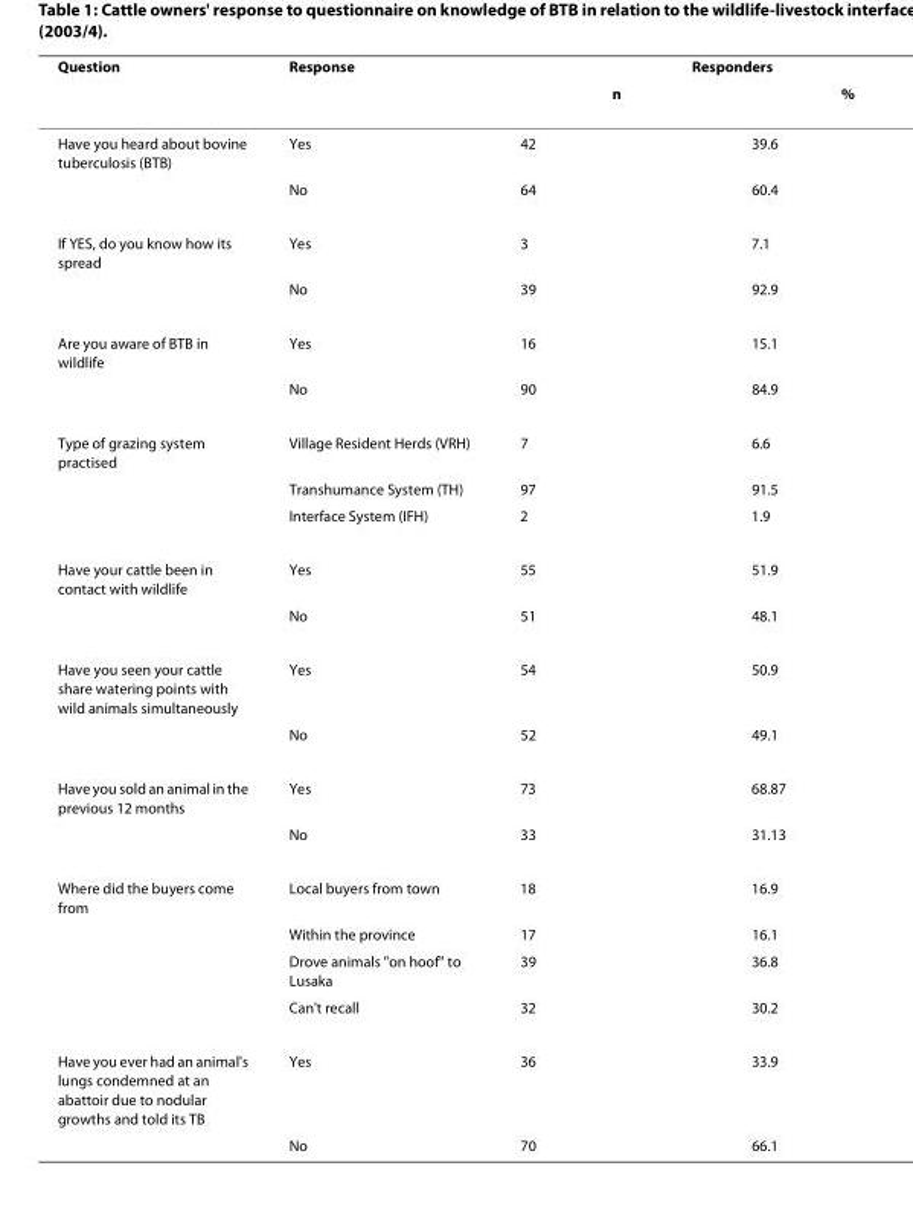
<table><thead><tr><td rowspan="2">Question</td><td rowspan="2">Response</td><td colspan="2">Responders</td></tr><tr><td>n</td><td>%</td></tr></thead><tbody><tr><td rowspan="2">Have you heard about bovine tuberculosis (BTB)</td><td>Yes</td><td>42</td><td>39.6</td></tr><tr><td>No</td><td>64</td><td>60.4</td></tr><tr><td rowspan="2">If YES, do you know how its spread</td><td>Yes</td><td>3</td><td>7.1</td></tr><tr><td>No</td><td>39</td><td>92.9</td></tr><tr><td rowspan="2">Are you aware of BTB in wildlife</td><td>Yes</td><td>16</td><td>15.1</td></tr><tr><td>No</td><td>90</td><td>84.9</td></tr><tr><td rowspan="3">Type of grazing system practised</td><td>Village Resident Herds (VRH)</td><td>7</td><td>6.6</td></tr><tr><td>Transhumance System (TH)</td><td>97</td><td>91.5</td></tr><tr><td>Interface System (IFH)</td><td>2</td><td>1.9</td></tr><tr><td rowspan="2">Have your cattle been in contact with wildlife</td><td>Yes</td><td>55</td><td>51.9</td></tr><tr><td>No</td><td>51</td><td>48.1</td></tr><tr><td rowspan="2">Have you seen your cattle share watering points with wild animals simultaneously</td><td>Yes</td><td>54</td><td>50.9</td></tr><tr><td>No</td><td>52</td><td>49.1</td></tr><tr><td rowspan="2">Have you sold an animal in the previous 12 months</td><td>Yes</td><td>73</td><td>68.87</td></tr><tr><td>No</td><td>33</td><td>31.13</td></tr><tr><td rowspan="4">Where did the buyers come from</td><td>Local buyers from town</td><td>18</td><td>16.9</td></tr><tr><td>Within the province</td><td>17</td><td>16.1</td></tr><tr><td>Drove animals &quot;on hoof&quot; to Lusaka</td><td>39</td><td>36.8</td></tr><tr><td>Can&#x27;t recall</td><td>32</td><td>30.2</td></tr><tr><td rowspan="2">Have you ever had an animal&#x27;s lungs condemned at an abattoir due to nodular growths and told its TB</td><td>Yes</td><td>36</td><td>33.9</td></tr><tr><td>No</td><td>70</td><td>66.1</td></tr></tbody></table>